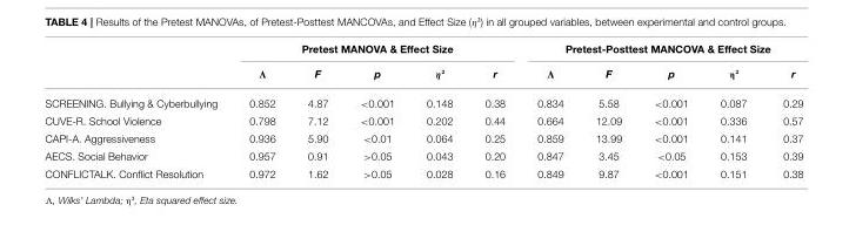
<table><thead><tr><td rowspan="2"></td><td colspan="5">Pretest MANOVA &amp; Effect Size</td><td colspan="5">Pretest-Posttest MANCOVA &amp; Effect Size</td></tr><tr><td>Λ</td><td>F</td><td>p</td><td>η²</td><td>r</td><td>Λ</td><td>F</td><td>p</td><td>η²</td><td>r</td></tr></thead><tbody><tr><td>SCREENING. Bullying &amp; Cyberbullying</td><td>0.852</td><td>4.87</td><td>&lt;0.001</td><td>0.148</td><td>0.38</td><td>0.834</td><td>5.58</td><td>&lt;0.001</td><td>0.087</td><td>0.29</td></tr><tr><td>CUVE-R. School Violence</td><td>0.798</td><td>7.12</td><td>&lt;0.001</td><td>0.202</td><td>0.44</td><td>0.664</td><td>12.09</td><td>&lt;0.001</td><td>0.336</td><td>0.57</td></tr><tr><td>CAPI-A. Aggressiveness</td><td>0.936</td><td>5.90</td><td>&lt;0.01</td><td>0.064</td><td>0.25</td><td>0.859</td><td>13.99</td><td>&lt;0.001</td><td>0.141</td><td>0.37</td></tr><tr><td>AECS. Social Behavior</td><td>0.957</td><td>0.91</td><td>&gt;0.05</td><td>0.043</td><td>0.20</td><td>0.847</td><td>3.45</td><td>&lt;0.05</td><td>0.153</td><td>0.39</td></tr><tr><td>CONFLICTALK. Conflict Resolution</td><td>0.972</td><td>1.62</td><td>&gt;0.05</td><td>0.028</td><td>0.16</td><td>0.849</td><td>9.87</td><td>&lt;0.001</td><td>0.151</td><td>0.38</td></tr></tbody></table>